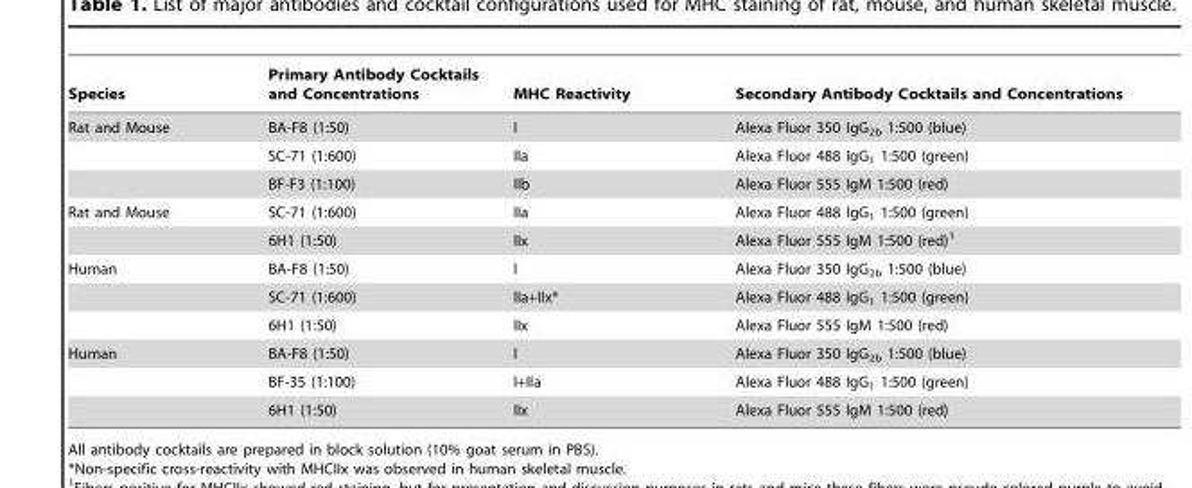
<table><thead><tr><td>Species</td><td>Primary Antibody Cocktails and Concentrations</td><td>MHC Reactivity</td><td>Secondary Antibody Cocktails and Concentrations</td></tr></thead><tbody><tr><td rowspan="3">Rat and Mouse</td><td>BA-F8 (1:50)</td><td>I</td><td>Alexa Fluor 350 IgG2b 1:500 (blue)</td></tr><tr><td>SC-71 (1:600)</td><td>IIa</td><td>Alexa Fluor 488 IgG1 1:500 (green)</td></tr><tr><td>BF-F3 (1:100)</td><td>IIb</td><td>Alexa Fluor 555 IgM 1:500 (red)</td></tr><tr><td rowspan="2">Rat and Mouse</td><td>SC-71 (1:600)</td><td>IIa</td><td>Alexa Fluor 488 IgG1 1:500 (green)</td></tr><tr><td>6H1 (1:50)</td><td>IIx</td><td>Alexa Fluor 555 IgM 1:500 (red)1</td></tr><tr><td rowspan="3">Human</td><td>BA-F8 (1:50)</td><td>I</td><td>Alexa Fluor 350 IgG2b 1:500 (blue)</td></tr><tr><td>SC-71 (1:600)</td><td>IIa+IIx*</td><td>Alexa Fluor 488 IgG1 1:500 (green)</td></tr><tr><td>6H1 (1:50)</td><td>IIx</td><td>Alexa Fluor 555 IgM 1:500 (red)</td></tr><tr><td rowspan="3">Human</td><td>BA-F8 (1:50)</td><td>I</td><td>Alexa Fluor 350 IgG2b 1:500 (blue)</td></tr><tr><td>BF-35 (1:100)</td><td>I+IIa</td><td>Alexa Fluor 488 IgG1 1:500 (green)</td></tr><tr><td>6H1 (1:50)</td><td>IIx</td><td>Alexa Fluor 555 IgM 1:500 (red)</td></tr></tbody></table>